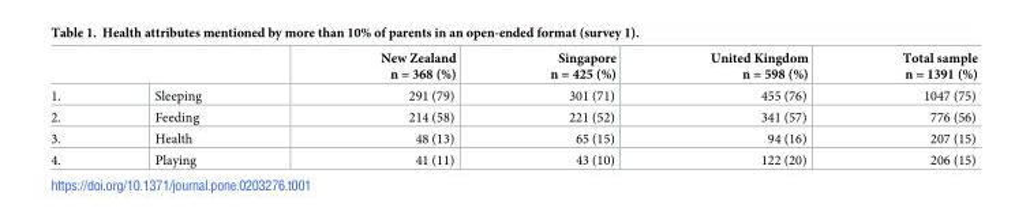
<table><thead><tr><td></td><td></td><td>New Zealand n = 368 (%)</td><td>Singapore n = 425 (%)</td><td>United Kingdom n = 598 (%)</td><td>Total sample n = 1391 (%)</td></tr></thead><tbody><tr><td>1.</td><td>Sleeping</td><td>291 (79)</td><td>301 (71)</td><td>455 (76)</td><td>1047 (75)</td></tr><tr><td>2.</td><td>Feeding</td><td>214 (58)</td><td>221 (52)</td><td>341 (57)</td><td>776 (56)</td></tr><tr><td>3.</td><td>Health</td><td>48 (13)</td><td>65 (15)</td><td>94 (16)</td><td>207 (15)</td></tr><tr><td>4.</td><td>Playing</td><td>41 (11)</td><td>43 (10)</td><td>122 (20)</td><td>206 (15)</td></tr></tbody></table>